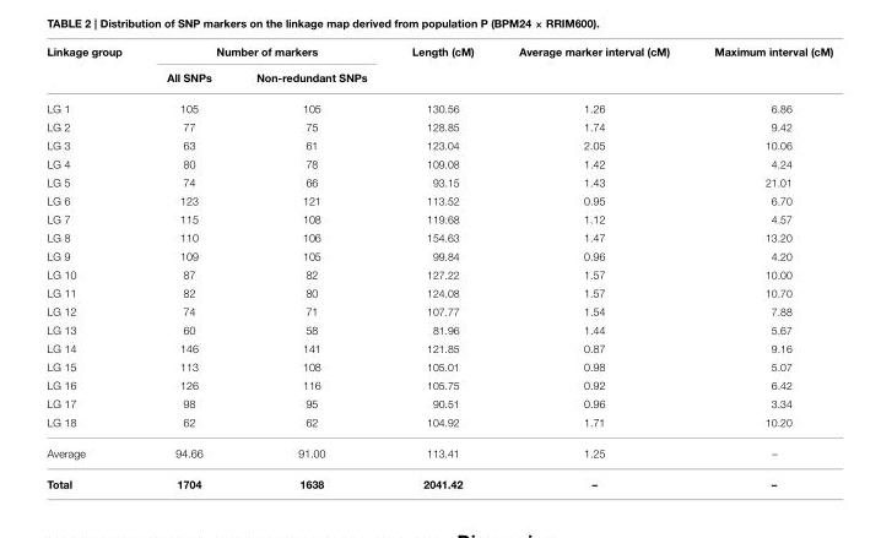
<table><thead><tr><td rowspan="2">Linkage group</td><td colspan="2">Number of markers</td><td rowspan="2">Length (cM)</td><td rowspan="2">Average marker interval (cM)</td><td rowspan="2">Maximum interval (cM)</td></tr><tr><td>All SNPs</td><td>Non-redundant SNPs</td></tr></thead><tbody><tr><td>LG 1</td><td>105</td><td>105</td><td>130.56</td><td>1.26</td><td>6.86</td></tr><tr><td>LG 2</td><td>77</td><td>75</td><td>128.85</td><td>1.74</td><td>9.42</td></tr><tr><td>LG 3</td><td>63</td><td>61</td><td>123.04</td><td>2.05</td><td>10.06</td></tr><tr><td>LG 4</td><td>80</td><td>78</td><td>109.08</td><td>1.42</td><td>4.24</td></tr><tr><td>LG 5</td><td>74</td><td>66</td><td>93.15</td><td>1.43</td><td>21.01</td></tr><tr><td>LG 6</td><td>123</td><td>121</td><td>113.52</td><td>0.95</td><td>6.70</td></tr><tr><td>LG 7</td><td>115</td><td>108</td><td>119.68</td><td>1.12</td><td>4.57</td></tr><tr><td>LG 8</td><td>110</td><td>106</td><td>154.63</td><td>1.47</td><td>13.20</td></tr><tr><td>LG 9</td><td>109</td><td>105</td><td>99.84</td><td>0.96</td><td>4.20</td></tr><tr><td>LG 10</td><td>87</td><td>82</td><td>127.22</td><td>1.57</td><td>10.00</td></tr><tr><td>LG 11</td><td>82</td><td>80</td><td>124.08</td><td>1.57</td><td>10.70</td></tr><tr><td>LG 12</td><td>74</td><td>71</td><td>107.77</td><td>1.54</td><td>7.88</td></tr><tr><td>LG 13</td><td>60</td><td>58</td><td>81.96</td><td>1.44</td><td>5.67</td></tr><tr><td>LG 14</td><td>146</td><td>141</td><td>121.85</td><td>0.87</td><td>9.16</td></tr><tr><td>LG 15</td><td>113</td><td>108</td><td>105.01</td><td>0.98</td><td>5.07</td></tr><tr><td>LG 16</td><td>126</td><td>116</td><td>105.75</td><td>0.92</td><td>6.42</td></tr><tr><td>LG 17</td><td>98</td><td>95</td><td>90.51</td><td>0.96</td><td>3.34</td></tr><tr><td>LG 18</td><td>62</td><td>62</td><td>104.92</td><td>1.71</td><td>10.20</td></tr><tr><td>Average</td><td>94.66</td><td>91.00</td><td>113.41</td><td>1.25</td><td>–</td></tr><tr><td>Total</td><td>1704</td><td>1638</td><td>2041.42</td><td>–</td><td>–</td></tr></tbody></table>